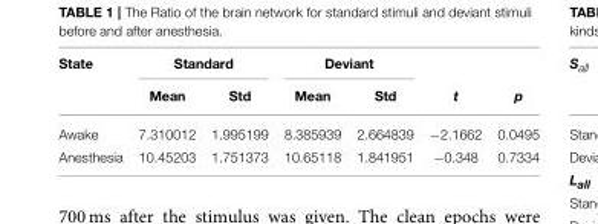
<table><thead><tr><td rowspan="2">State</td><td colspan="2">Standard</td><td colspan="2">Deviant</td><td rowspan="2">t</td><td rowspan="2">p</td></tr><tr><td>Mean</td><td>Std</td><td>Mean</td><td>Std</td></tr></thead><tbody><tr><td>Awake</td><td>7.310012</td><td>1.995199</td><td>8.385939</td><td>2.664839</td><td>−2.1662</td><td>0.0495</td></tr><tr><td>Anesthesia</td><td>10.45203</td><td>1.751373</td><td>10.65118</td><td>1.841951</td><td>−0.348</td><td>0.7334</td></tr></tbody></table>